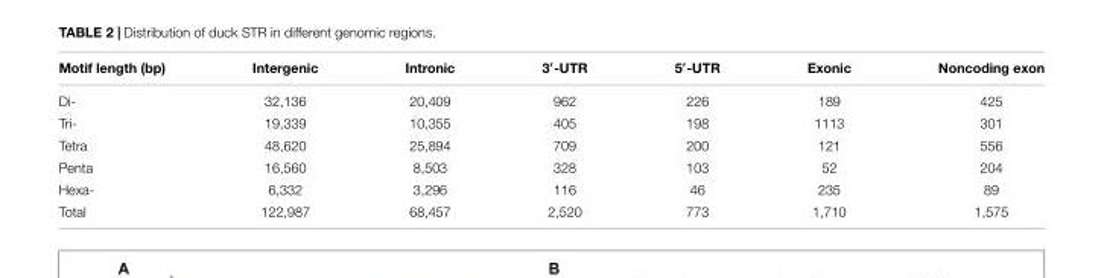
<table><thead><tr><td>Motif length (bp)</td><td>Intergenic</td><td>Intronic</td><td>3′-UTR</td><td>5′-UTR</td><td>Exonic</td><td>Noncoding exon</td></tr></thead><tbody><tr><td>Di-</td><td>32,136</td><td>20,409</td><td>962</td><td>226</td><td>189</td><td>425</td></tr><tr><td>Tri-</td><td>19,339</td><td>10,355</td><td>405</td><td>198</td><td>1113</td><td>301</td></tr><tr><td>Tetra</td><td>48,620</td><td>25,894</td><td>709</td><td>200</td><td>121</td><td>556</td></tr><tr><td>Penta</td><td>16,560</td><td>8,503</td><td>328</td><td>103</td><td>52</td><td>204</td></tr><tr><td>Hexa-</td><td>6,332</td><td>3,296</td><td>116</td><td>46</td><td>235</td><td>89</td></tr><tr><td>Total</td><td>122,987</td><td>68,457</td><td>2,520</td><td>773</td><td>1,710</td><td>1,575</td></tr></tbody></table>